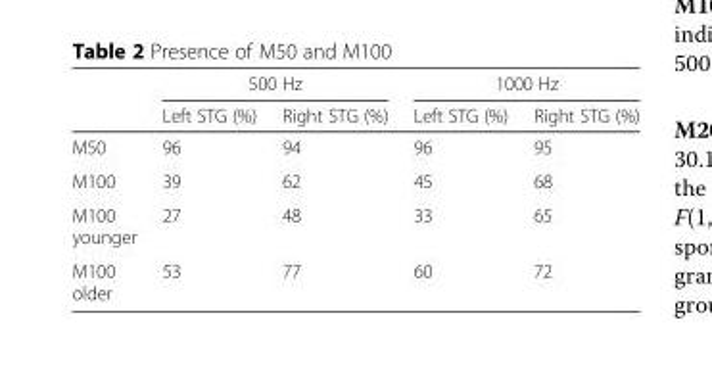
<table><thead><tr><td rowspan="2"></td><td colspan="2">500 Hz</td><td colspan="2">1000 Hz</td></tr><tr><td>Left STG (%)</td><td>Right STG (%)</td><td>Left STG (%)</td><td>Right STG (%)</td></tr></thead><tbody><tr><td>M50</td><td>96</td><td>94</td><td>96</td><td>95</td></tr><tr><td>M100</td><td>39</td><td>62</td><td>45</td><td>68</td></tr><tr><td>M100 younger</td><td>27</td><td>48</td><td>33</td><td>65</td></tr><tr><td>M100 older</td><td>53</td><td>77</td><td>60</td><td>72</td></tr></tbody></table>